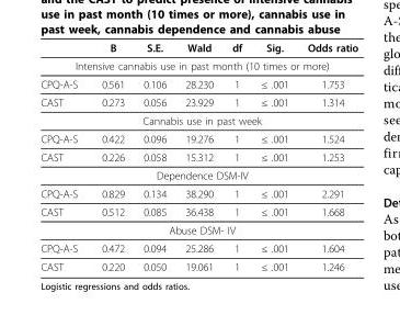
<table><thead><tr><td></td><td>B</td><td>S.E.</td><td>Wald</td><td>df</td><td>Sig.</td><td>Odds ratio</td></tr></thead><tbody><tr><td colspan="7">Intensive cannabis use in past month (10 times or more)</td></tr><tr><td>CPQ-A-S</td><td>0.561</td><td>0.106</td><td>28.230</td><td>1</td><td>≤ .001</td><td>1.753</td></tr><tr><td>CAST</td><td>0.273</td><td>0.056</td><td>23.929</td><td>1</td><td>≤ .001</td><td>1.314</td></tr><tr><td colspan="7">Cannabis use in past week</td></tr><tr><td>CPQ-A-S</td><td>0.422</td><td>0.096</td><td>19.276</td><td>1</td><td>≤ .001</td><td>1.524</td></tr><tr><td>CAST</td><td>0.226</td><td>0.058</td><td>15.312</td><td>1</td><td>≤ .001</td><td>1.253</td></tr><tr><td colspan="7">Dependence DSM-IV</td></tr><tr><td>CPQ-A-S</td><td>0.829</td><td>0.134</td><td>38.290</td><td>1</td><td>≤ .001</td><td>2.291</td></tr><tr><td>CAST</td><td>0.512</td><td>0.085</td><td>36.438</td><td>1</td><td>≤ .001</td><td>1.668</td></tr><tr><td colspan="7">Abuse DSM- IV</td></tr><tr><td>CPQ-A-S</td><td>0.472</td><td>0.094</td><td>25.286</td><td>1</td><td>≤ .001</td><td>1.604</td></tr><tr><td>CAST</td><td>0.220</td><td>0.050</td><td>19.061</td><td>1</td><td>≤ .001</td><td>1.246</td></tr></tbody></table>